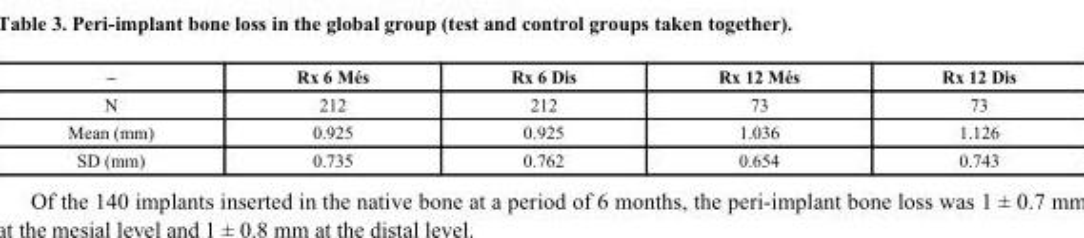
<table><thead><tr><td>–</td><td>Rx 6 Més</td><td>Rx 6 Dis</td><td>Rx 12 Més</td><td>Rx 12 Dis</td></tr></thead><tbody><tr><td>N</td><td>212</td><td>212</td><td>73</td><td>73</td></tr><tr><td>Mean (mm)</td><td>0.925</td><td>0.925</td><td>1.036</td><td>1.126</td></tr><tr><td>SD (mm)</td><td>0.735</td><td>0.762</td><td>0.654</td><td>0.743</td></tr></tbody></table>